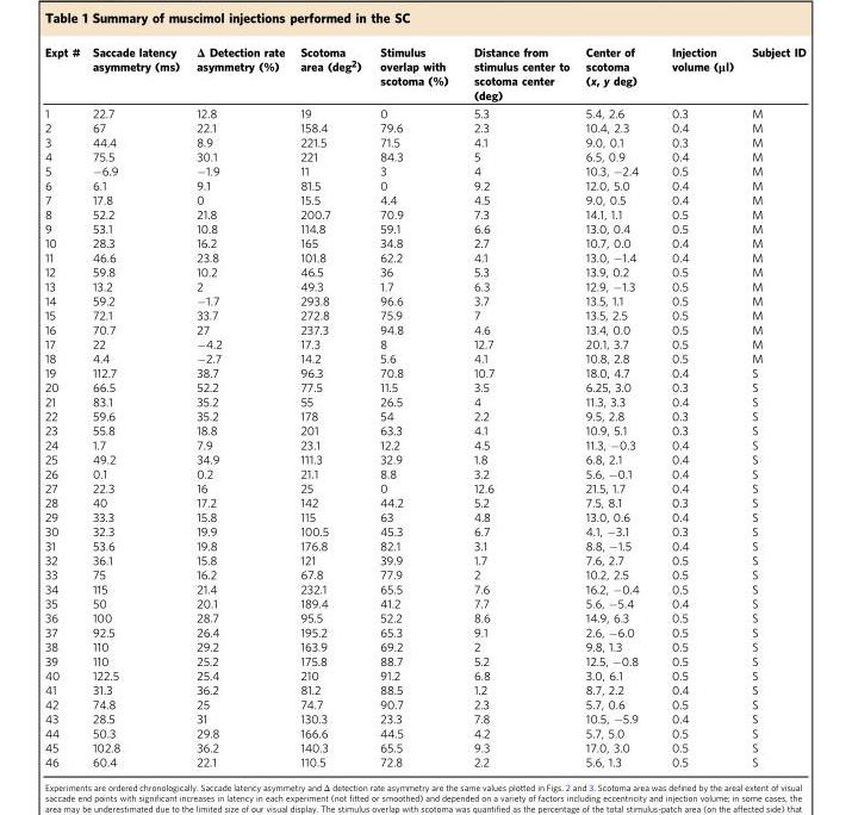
<table><thead><tr><td>Expt #</td><td>Saccade latency asymmetry (ms)</td><td>Δ Detection rate asymmetry (%)</td><td>Scotoma area (deg<sup>2</sup>)</td><td>Stimulus overlap with scotoma (%)</td><td>Distance from stimulus center to scotoma center (deg)</td><td>Center of scotoma (x, y deg)</td><td>Injection volume (μl)</td><td>Subject ID</td></tr></thead><tbody><tr><td>1</td><td>22.7</td><td>12.8</td><td>19</td><td>0</td><td>5.3</td><td>5.4, 2.6</td><td>0.3</td><td>M</td></tr><tr><td>2</td><td>67</td><td>22.1</td><td>158.4</td><td>79.6</td><td>2.3</td><td>10.4, 2.3</td><td>0.4</td><td>M</td></tr><tr><td>3</td><td>44.4</td><td>8.9</td><td>221.5</td><td>71.5</td><td>4.1</td><td>9.0, 0.1</td><td>0.3</td><td>M</td></tr><tr><td>4</td><td>75.5</td><td>30.1</td><td>221</td><td>84.3</td><td>5</td><td>6.5, 0.9</td><td>0.4</td><td>M</td></tr><tr><td>5</td><td>−6.9</td><td>−1.9</td><td>11</td><td>3</td><td>4</td><td>10.3, −2.4</td><td>0.5</td><td>M</td></tr><tr><td>6</td><td>6.1</td><td>9.1</td><td>81.5</td><td>0</td><td>9.2</td><td>12.0, 5.0</td><td>0.4</td><td>M</td></tr><tr><td>7</td><td>17.8</td><td>0</td><td>15.5</td><td>4.4</td><td>4.5</td><td>9.0, 0.5</td><td>0.4</td><td>M</td></tr><tr><td>8</td><td>52.2</td><td>21.8</td><td>200.7</td><td>70.9</td><td>7.3</td><td>14.1, 1.1</td><td>0.5</td><td>M</td></tr><tr><td>9</td><td>53.1</td><td>10.8</td><td>114.8</td><td>59.1</td><td>6.6</td><td>13.0, 0.4</td><td>0.5</td><td>M</td></tr><tr><td>10</td><td>28.3</td><td>16.2</td><td>165</td><td>34.8</td><td>2.7</td><td>10.7, 0.0</td><td>0.4</td><td>M</td></tr><tr><td>11</td><td>46.6</td><td>23.8</td><td>101.8</td><td>62.2</td><td>4.1</td><td>13.0, −1.4</td><td>0.4</td><td>M</td></tr><tr><td>12</td><td>59.8</td><td>10.2</td><td>46.5</td><td>36</td><td>5.3</td><td>13.9, 0.2</td><td>0.5</td><td>M</td></tr><tr><td>13</td><td>13.2</td><td>2</td><td>49.3</td><td>1.7</td><td>6.3</td><td>12.9, −1.3</td><td>0.5</td><td>M</td></tr><tr><td>14</td><td>59.2</td><td>−1.7</td><td>293.8</td><td>96.6</td><td>3.7</td><td>13.5, 1.1</td><td>0.5</td><td>M</td></tr><tr><td>15</td><td>72.1</td><td>33.7</td><td>272.8</td><td>75.9</td><td>7</td><td>13.5, 2.5</td><td>0.5</td><td>M</td></tr><tr><td>16</td><td>70.7</td><td>27</td><td>237.3</td><td>94.8</td><td>4.6</td><td>13.4, 0.0</td><td>0.5</td><td>M</td></tr><tr><td>17</td><td>22</td><td>−4.2</td><td>17.3</td><td>8</td><td>12.7</td><td>20.1, 3.7</td><td>0.5</td><td>M</td></tr><tr><td>18</td><td>4.4</td><td>−2.7</td><td>14.2</td><td>5.6</td><td>4.1</td><td>10.8, 2.8</td><td>0.5</td><td>M</td></tr><tr><td>19</td><td>112.7</td><td>38.7</td><td>96.3</td><td>70.8</td><td>10.7</td><td>18.0, 4.7</td><td>0.4</td><td>S</td></tr><tr><td>20</td><td>66.5</td><td>52.2</td><td>77.5</td><td>11.5</td><td>3.5</td><td>6.25, 3.0</td><td>0.3</td><td>S</td></tr><tr><td>21</td><td>83.1</td><td>35.2</td><td>55</td><td>26.5</td><td>4</td><td>11.3, 3.3</td><td>0.4</td><td>S</td></tr><tr><td>22</td><td>59.6</td><td>35.2</td><td>178</td><td>54</td><td>2.2</td><td>9.5, 2.8</td><td>0.3</td><td>S</td></tr><tr><td>23</td><td>55.8</td><td>18.8</td><td>201</td><td>63.3</td><td>4.1</td><td>10.9, 5.1</td><td>0.3</td><td>S</td></tr><tr><td>24</td><td>1.7</td><td>7.9</td><td>23.1</td><td>12.2</td><td>4.5</td><td>11.3, −0.3</td><td>0.4</td><td>S</td></tr><tr><td>25</td><td>49.2</td><td>34.9</td><td>111.3</td><td>32.9</td><td>1.8</td><td>6.8, 2.1</td><td>0.4</td><td>S</td></tr><tr><td>26</td><td>0.1</td><td>0.2</td><td>21.1</td><td>8.8</td><td>3.2</td><td>5.6, −0.1</td><td>0.4</td><td>S</td></tr><tr><td>27</td><td>22.3</td><td>16</td><td>25</td><td>0</td><td>12.6</td><td>21.5, 1.7</td><td>0.4</td><td>S</td></tr><tr><td>28</td><td>40</td><td>17.2</td><td>142</td><td>44.2</td><td>5.2</td><td>7.5, 8.1</td><td>0.3</td><td>S</td></tr><tr><td>29</td><td>33.3</td><td>15.8</td><td>115</td><td>63</td><td>4.8</td><td>13.0, 0.6</td><td>0.4</td><td>S</td></tr><tr><td>30</td><td>32.3</td><td>19.9</td><td>100.5</td><td>45.3</td><td>6.7</td><td>4.1, −3.1</td><td>0.3</td><td>S</td></tr><tr><td>31</td><td>53.6</td><td>19.8</td><td>176.8</td><td>82.1</td><td>3.1</td><td>8.8, −1.5</td><td>0.4</td><td>S</td></tr><tr><td>32</td><td>36.1</td><td>15.8</td><td>121</td><td>39.9</td><td>1.7</td><td>7.6, 2.7</td><td>0.5</td><td>S</td></tr><tr><td>33</td><td>75</td><td>16.2</td><td>67.8</td><td>77.9</td><td>2</td><td>10.2, 2.5</td><td>0.5</td><td>S</td></tr><tr><td>34</td><td>115</td><td>21.4</td><td>232.1</td><td>65.5</td><td>7.6</td><td>16.2, −0.4</td><td>0.5</td><td>S</td></tr><tr><td>35</td><td>50</td><td>20.1</td><td>189.4</td><td>41.2</td><td>7.7</td><td>5.6, −5.4</td><td>0.4</td><td>S</td></tr><tr><td>36</td><td>100</td><td>28.7</td><td>95.5</td><td>52.2</td><td>8.6</td><td>14.9, 6.3</td><td>0.5</td><td>S</td></tr><tr><td>37</td><td>92.5</td><td>26.4</td><td>195.2</td><td>65.3</td><td>9.1</td><td>2.6, −6.0</td><td>0.5</td><td>S</td></tr><tr><td>38</td><td>110</td><td>29.2</td><td>163.9</td><td>69.2</td><td>2</td><td>9.8, 1.3</td><td>0.5</td><td>S</td></tr><tr><td>39</td><td>110</td><td>25.2</td><td>175.8</td><td>88.7</td><td>5.2</td><td>12.5, −0.8</td><td>0.5</td><td>S</td></tr><tr><td>40</td><td>122.5</td><td>25.4</td><td>210</td><td>91.2</td><td>6.8</td><td>3.0, 6.1</td><td>0.5</td><td>S</td></tr><tr><td>41</td><td>31.3</td><td>36.2</td><td>81.2</td><td>88.5</td><td>1.2</td><td>8.7, 2.2</td><td>0.4</td><td>S</td></tr><tr><td>42</td><td>74.8</td><td>25</td><td>74.7</td><td>90.7</td><td>2.3</td><td>5.7, 0.6</td><td>0.5</td><td>S</td></tr><tr><td>43</td><td>28.5</td><td>31</td><td>130.3</td><td>23.3</td><td>7.8</td><td>10.5, −5.9</td><td>0.4</td><td>S</td></tr><tr><td>44</td><td>50.3</td><td>29.8</td><td>166.6</td><td>44.5</td><td>4.2</td><td>5.7, 5.0</td><td>0.5</td><td>S</td></tr><tr><td>45</td><td>102.8</td><td>36.2</td><td>140.3</td><td>65.5</td><td>9.3</td><td>17.0, 3.0</td><td>0.5</td><td>S</td></tr><tr><td>46</td><td>60.4</td><td>22.1</td><td>110.5</td><td>72.8</td><td>2.2</td><td>5.6, 1.3</td><td>0.5</td><td>S</td></tr></tbody></table>